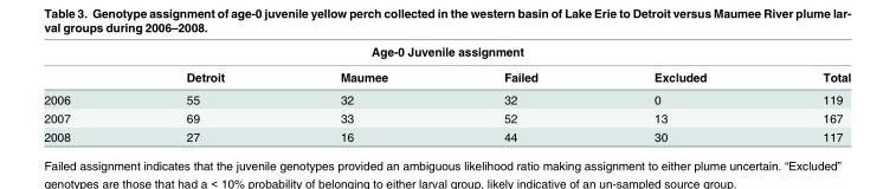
<table><thead><tr><td colspan="6">Age-0 Juvenile assignment</td></tr><tr><td></td><td>Detroit</td><td>Maumee</td><td>Failed</td><td>Excluded</td><td>Total</td></tr></thead><tbody><tr><td>2006</td><td>55</td><td>32</td><td>32</td><td>0</td><td>119</td></tr><tr><td>2007</td><td>69</td><td>33</td><td>52</td><td>13</td><td>167</td></tr><tr><td>2008</td><td>27</td><td>16</td><td>44</td><td>30</td><td>117</td></tr></tbody></table>